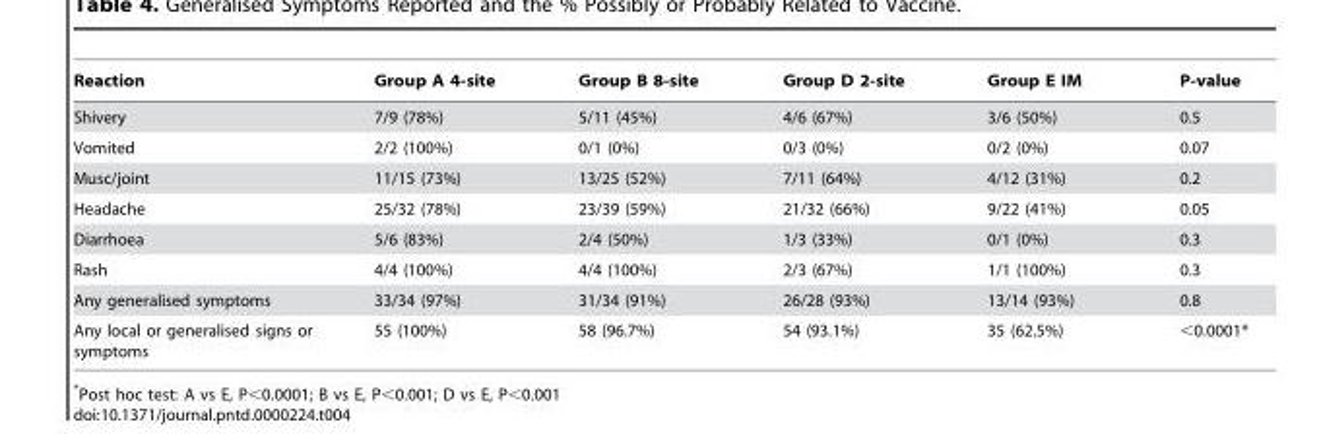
<table><thead><tr><td>Reaction</td><td>Group A 4-site</td><td>Group B 8-site</td><td>Group D 2-site</td><td>Group E IM</td><td>P-value</td></tr></thead><tbody><tr><td>Shivery</td><td>7/9 (78%)</td><td>5/11 (45%)</td><td>4/6 (67%)</td><td>3/6 (50%)</td><td>0.5</td></tr><tr><td>Vomited</td><td>2/2 (100%)</td><td>0/1 (0%)</td><td>0/3 (0%)</td><td>0/2 (0%)</td><td>0.07</td></tr><tr><td>Musc/joint</td><td>11/15 (73%)</td><td>13/25 (52%)</td><td>7/11 (64%)</td><td>4/12 (31%)</td><td>0.2</td></tr><tr><td>Headache</td><td>25/32 (78%)</td><td>23/39 (59%)</td><td>21/32 (66%)</td><td>9/22 (41%)</td><td>0.05</td></tr><tr><td>Diarrhoea</td><td>5/6 (83%)</td><td>2/4 (50%)</td><td>1/3 (33%)</td><td>0/1 (0%)</td><td>0.3</td></tr><tr><td>Rash</td><td>4/4 (100%)</td><td>4/4 (100%)</td><td>2/3 (67%)</td><td>1/1 (100%)</td><td>0.3</td></tr><tr><td>Any generalised symptoms</td><td>33/34 (97%)</td><td>31/34 (91%)</td><td>26/28 (93%)</td><td>13/14 (93%)</td><td>0.8</td></tr><tr><td>Any local or generalised signs or symptoms</td><td>55 (100%)</td><td>58 (96.7%)</td><td>54 (93.1%)</td><td>35 (62.5%)</td><td>&lt;0.0001*</td></tr></tbody></table>